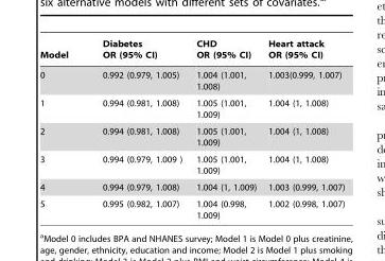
<table><thead><tr><td>Model</td><td>Diabetes OR (95% CI)</td><td>CHD OR (95% CI)</td><td>Heart attack OR (95% CI)</td></tr></thead><tbody><tr><td>0</td><td>0.992 (0.979, 1.005)</td><td>1.004 (1.001, 1.008)</td><td>1.003(0.999, 1.007)</td></tr><tr><td>1</td><td>0.994 (0.981, 1.008)</td><td>1.005 (1.001, 1.009)</td><td>1.004 (1, 1.008)</td></tr><tr><td>2</td><td>0.994 (0.981, 1.008)</td><td>1.005 (1.001, 1.009)</td><td>1.004 (1, 1.008)</td></tr><tr><td>3</td><td>0.994 (0.979, 1.009 )</td><td>1.005 (1.001, 1.009)</td><td>1.004 (1, 1.008)</td></tr><tr><td>4</td><td>0.994 (0.979, 1.008)</td><td>1.004 (1, 1.009)</td><td>1.003 (0.999, 1.007)</td></tr><tr><td>5</td><td>0.995 (0.982, 1.007)</td><td>1.004 (0.998, 1.009)</td><td>1.002 (0.998, 1.007)</td></tr></tbody></table>